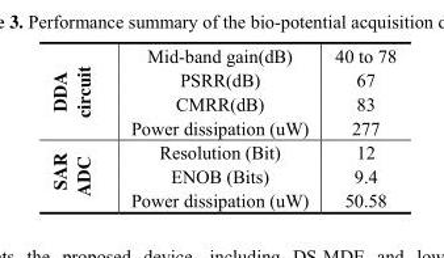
<table><tbody><tr><td rowspan="4">DDA circuit</td><td>Mid-band gain(dB)</td><td>40 to 78</td></tr><tr><td>PSRR(dB)</td><td>67</td></tr><tr><td>CMRR(dB)</td><td>83</td></tr><tr><td>Power dissipation (uW)</td><td>277</td></tr><tr><td rowspan="3">SAR ADC</td><td>Resolution (Bit)</td><td>12</td></tr><tr><td>ENOB (Bits)</td><td>9.4</td></tr><tr><td>Power dissipation (uW)</td><td>50.58</td></tr></tbody></table>